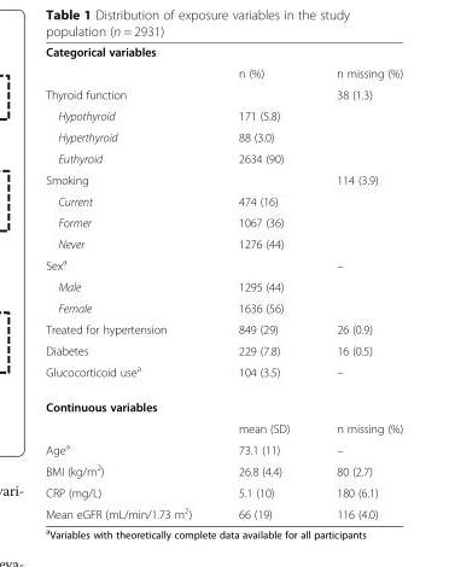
<table><tbody><tr><td colspan="3">Categorical variables</td></tr><tr><td></td><td>n (%)</td><td>n missing (%)</td></tr><tr><td>Thyroid function</td><td></td><td>38 (1.3)</td></tr><tr><td>Hypothyroid</td><td>171 (5.8)</td><td></td></tr><tr><td>Hyperthyroid</td><td>88 (3.0)</td><td></td></tr><tr><td>Euthyroid</td><td>2634 (90)</td><td></td></tr><tr><td>Smoking</td><td></td><td>114 (3.9)</td></tr><tr><td>Current</td><td>474 (16)</td><td></td></tr><tr><td>Former</td><td>1067 (36)</td><td></td></tr><tr><td>Never</td><td>1276 (44)</td><td></td></tr><tr><td>Sex<sup>a</sup></td><td></td><td>–</td></tr><tr><td>Male</td><td>1295 (44)</td><td></td></tr><tr><td>Female</td><td>1636 (56)</td><td></td></tr><tr><td>Treated for hypertension</td><td>849 (29)</td><td>26 (0.9)</td></tr><tr><td>Diabetes</td><td>229 (7.8)</td><td>16 (0.5)</td></tr><tr><td>Glucocorticoid use<sup>a</sup></td><td>104 (3.5)</td><td>–</td></tr><tr><td colspan="3">Continuous variables</td></tr><tr><td></td><td>mean (SD)</td><td>n missing (%)</td></tr><tr><td>Age<sup>a</sup></td><td>73.1 (11)</td><td>–</td></tr><tr><td>BMI (kg/m<sup>2</sup>)</td><td>26.8 (4.4)</td><td>80 (2.7)</td></tr><tr><td>CRP (mg/L)</td><td>5.1 (10)</td><td>180 (6.1)</td></tr><tr><td>Mean eGFR (mL/min/1.73 m<sup>2</sup>)</td><td>66 (19)</td><td>116 (4.0)</td></tr></tbody></table>